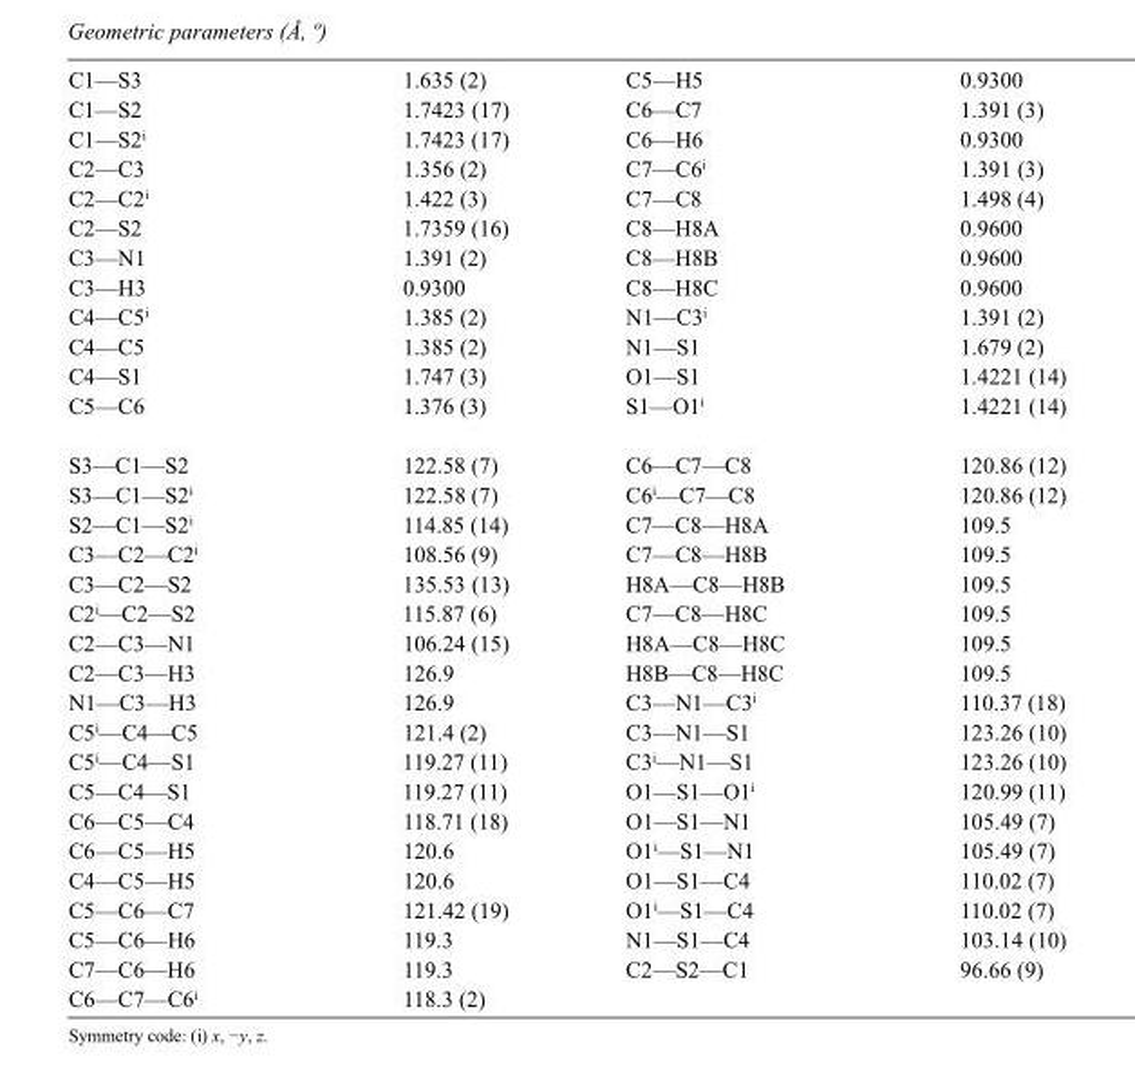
<table><tbody><tr><td>C1—S3</td><td>1.635 (2)</td><td>C5—H5</td><td>0.9300</td></tr><tr><td>C1—S2</td><td>1.7423 (17)</td><td>C6—C7</td><td>1.391 (3)</td></tr><tr><td>C1—S2<sup>i</sup></td><td>1.7423 (17)</td><td>C6—H6</td><td>0.9300</td></tr><tr><td>C2—C3</td><td>1.356 (2)</td><td>C7—C6<sup>i</sup></td><td>1.391 (3)</td></tr><tr><td>C2—C2<sup>i</sup></td><td>1.422 (3)</td><td>C7—C8</td><td>1.498 (4)</td></tr><tr><td>C2—S2</td><td>1.7359 (16)</td><td>C8—H8A</td><td>0.9600</td></tr><tr><td>C3—N1</td><td>1.391 (2)</td><td>C8—H8B</td><td>0.9600</td></tr><tr><td>C3—H3</td><td>0.9300</td><td>C8—H8C</td><td>0.9600</td></tr><tr><td>C4—C5<sup>i</sup></td><td>1.385 (2)</td><td>N1—C3<sup>i</sup></td><td>1.391 (2)</td></tr><tr><td>C4—C5</td><td>1.385 (2)</td><td>N1—S1</td><td>1.679 (2)</td></tr><tr><td>C4—S1</td><td>1.747 (3)</td><td>O1—S1</td><td>1.4221 (14)</td></tr><tr><td>C5—C6</td><td>1.376 (3)</td><td>S1—O1<sup>i</sup></td><td>1.4221 (14)</td></tr><tr><td>S3—C1—S2</td><td>122.58 (7)</td><td>C6—C7—C8</td><td>120.86 (12)</td></tr><tr><td>S3—C1—S2<sup>i</sup></td><td>122.58 (7)</td><td>C6<sup>i</sup>—C7—C8</td><td>120.86 (12)</td></tr><tr><td>S2—C1—S2<sup>i</sup></td><td>114.85 (14)</td><td>C7—C8—H8A</td><td>109.5</td></tr><tr><td>C3—C2—C2<sup>i</sup></td><td>108.56 (9)</td><td>C7—C8—H8B</td><td>109.5</td></tr><tr><td>C3—C2—S2</td><td>135.53 (13)</td><td>H8A—C8—H8B</td><td>109.5</td></tr><tr><td>C2<sup>i</sup>—C2—S2</td><td>115.87 (6)</td><td>C7—C8—H8C</td><td>109.5</td></tr><tr><td>C2—C3—N1</td><td>106.24 (15)</td><td>H8A—C8—H8C</td><td>109.5</td></tr><tr><td>C2—C3—H3</td><td>126.9</td><td>H8B—C8—H8C</td><td>109.5</td></tr><tr><td>N1—C3—H3</td><td>126.9</td><td>C3—N1—C3<sup>i</sup></td><td>110.37 (18)</td></tr><tr><td>C5<sup>i</sup>—C4—C5</td><td>121.4 (2)</td><td>C3—N1—S1</td><td>123.26 (10)</td></tr><tr><td>C5<sup>i</sup>—C4—S1</td><td>119.27 (11)</td><td>C3<sup>i</sup>—N1—S1</td><td>123.26 (10)</td></tr><tr><td>C5—C4—S1</td><td>119.27 (11)</td><td>O1—S1—O1<sup>i</sup></td><td>120.99 (11)</td></tr><tr><td>C6—C5—C4</td><td>118.71 (18)</td><td>O1—S1—N1</td><td>105.49 (7)</td></tr><tr><td>C6—C5—H5</td><td>120.6</td><td>O1<sup>i</sup>—S1—N1</td><td>105.49 (7)</td></tr><tr><td>C4—C5—H5</td><td>120.6</td><td>O1—S1—C4</td><td>110.02 (7)</td></tr><tr><td>C5—C6—C7</td><td>121.42 (19)</td><td>O1<sup>i</sup>—S1—C4</td><td>110.02 (7)</td></tr><tr><td>C5—C6—H6</td><td>119.3</td><td>N1—S1—C4</td><td>103.14 (10)</td></tr><tr><td>C7—C6—H6</td><td>119.3</td><td>C2—S2—C1</td><td>96.66 (9)</td></tr><tr><td>C6—C7—C6<sup>i</sup></td><td>118.3 (2)</td><td></td><td></td></tr></tbody></table>